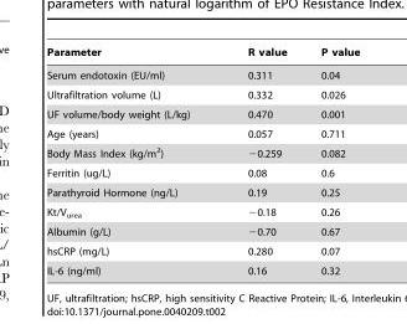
<table><thead><tr><td>Parameter</td><td>R value</td><td>P value</td></tr></thead><tbody><tr><td>Serum endotoxin (EU/ml)</td><td>0.311</td><td>0.04</td></tr><tr><td>Ultrafiltration volume (L)</td><td>0.332</td><td>0.026</td></tr><tr><td>UF volume/body weight (L/kg)</td><td>0.470</td><td>0.001</td></tr><tr><td>Age (years)</td><td>0.057</td><td>0.711</td></tr><tr><td>Body Mass Index (kg/m<sup>2</sup>)</td><td>−0.259</td><td>0.082</td></tr><tr><td>Ferritin (ug/L)</td><td>0.08</td><td>0.6</td></tr><tr><td>Parathyroid Hormone (ng/L)</td><td>0.19</td><td>0.25</td></tr><tr><td>Kt/V<sub>urea</sub></td><td>−0.18</td><td>0.26</td></tr><tr><td>Albumin (g/L)</td><td>−0.70</td><td>0.67</td></tr><tr><td>hsCRP (mg/L)</td><td>0.280</td><td>0.07</td></tr><tr><td>IL-6 (ng/ml)</td><td>0.16</td><td>0.32</td></tr></tbody></table>